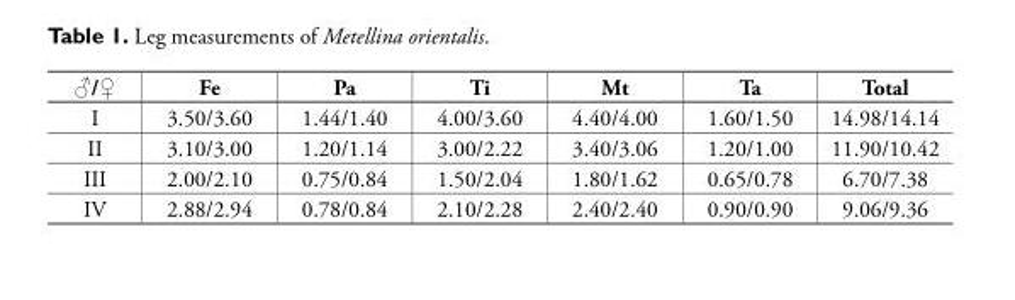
<table><thead><tr><td>♂/♀</td><td>Fe</td><td>Pa</td><td>Ti</td><td>Mt</td><td>Ta</td><td>Total</td></tr></thead><tbody><tr><td>I</td><td>3.50/3.60</td><td>1.44/1.40</td><td>4.00/3.60</td><td>4.40/4.00</td><td>1.60/1.50</td><td>14.98/14.14</td></tr><tr><td>II</td><td>3.10/3.00</td><td>1.20/1.14</td><td>3.00/2.22</td><td>3.40/3.06</td><td>1.20/1.00</td><td>11.90/10.42</td></tr><tr><td>III</td><td>2.00/2.10</td><td>0.75/0.84</td><td>1.50/2.04</td><td>1.80/1.62</td><td>0.65/0.78</td><td>6.70/7.38</td></tr><tr><td>IV</td><td>2.88/2.94</td><td>0.78/0.84</td><td>2.10/2.28</td><td>2.40/2.40</td><td>0.90/0.90</td><td>9.06/9.36</td></tr></tbody></table>